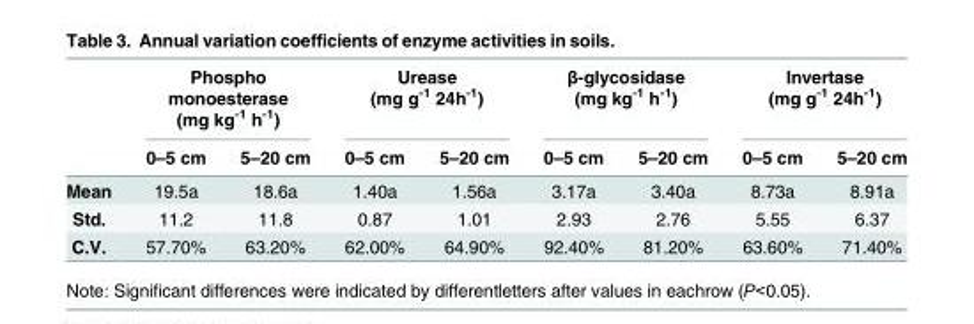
<table><thead><tr><td rowspan="2"></td><td colspan="2">Phospho monoesterase (mg kg<sup>-1</sup> h<sup>-1</sup>)</td><td colspan="2">Urease (mg g<sup>-1</sup> 24h<sup>-1</sup>)</td><td colspan="2">β-glycosidase (mg kg<sup>-1</sup> h<sup>-1</sup>)</td><td colspan="2">Invertase (mg g<sup>-1</sup> 24h<sup>-1</sup>)</td></tr><tr><td>0–5 cm</td><td>5–20 cm</td><td>0–5 cm</td><td>5–20 cm</td><td>0–5 cm</td><td>5–20 cm</td><td>0–5 cm</td><td>5–20 cm</td></tr></thead><tbody><tr><td>Mean</td><td>19.5a</td><td>18.6a</td><td>1.40a</td><td>1.56a</td><td>3.17a</td><td>3.40a</td><td>8.73a</td><td>8.91a</td></tr><tr><td>Std.</td><td>11.2</td><td>11.8</td><td>0.87</td><td>1.01</td><td>2.93</td><td>2.76</td><td>5.55</td><td>6.37</td></tr><tr><td>C.V.</td><td>57.70%</td><td>63.20%</td><td>62.00%</td><td>64.90%</td><td>92.40%</td><td>81.20%</td><td>63.60%</td><td>71.40%</td></tr></tbody></table>